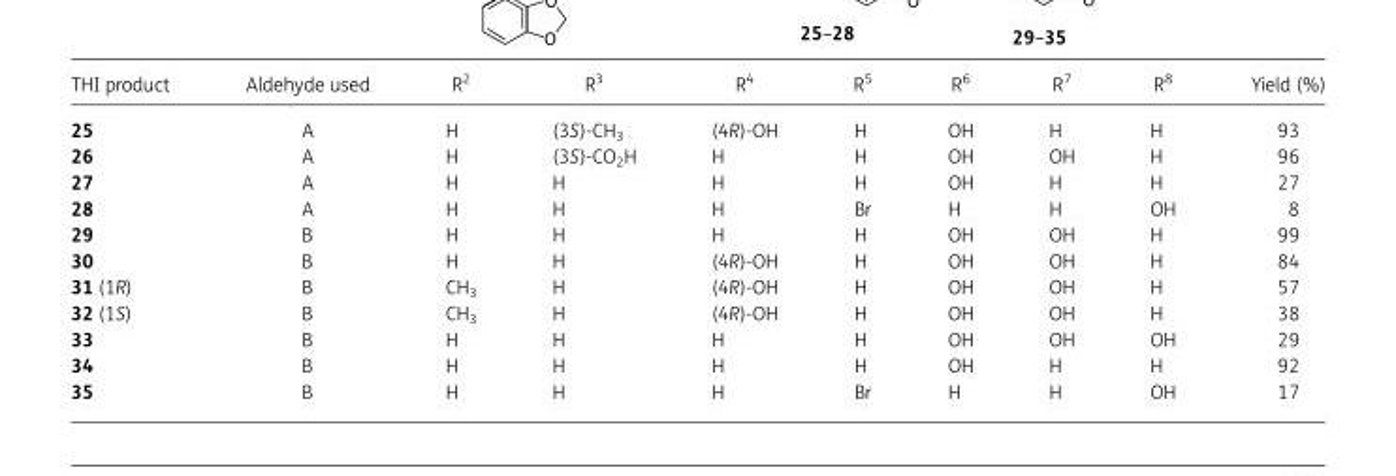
<table><thead><tr><td>THI product</td><td>Aldehyde used</td><td>R<sup>2</sup></td><td>R<sup>3</sup></td><td>R<sup>4</sup></td><td>R<sup>5</sup></td><td>R<sup>6</sup></td><td>R<sup>7</sup></td><td>R<sup>8</sup></td><td>Yield (%)</td></tr></thead><tbody><tr><td>25</td><td>A</td><td>H</td><td>(3S)-CH<sub>3</sub></td><td>(4R)-OH</td><td>H</td><td>OH</td><td>H</td><td>H</td><td>93</td></tr><tr><td>26</td><td>A</td><td>H</td><td>(3S)-CO<sub>2</sub>H</td><td>H</td><td>H</td><td>OH</td><td>OH</td><td>H</td><td>96</td></tr><tr><td>27</td><td>A</td><td>H</td><td>H</td><td>H</td><td>H</td><td>OH</td><td>H</td><td>H</td><td>27</td></tr><tr><td>28</td><td>A</td><td>H</td><td>H</td><td>H</td><td>Br</td><td>H</td><td>H</td><td>OH</td><td>8</td></tr><tr><td>29</td><td>B</td><td>H</td><td>H</td><td>H</td><td>H</td><td>OH</td><td>OH</td><td>H</td><td>99</td></tr><tr><td>30</td><td>B</td><td>H</td><td>H</td><td>(4R)-OH</td><td>H</td><td>OH</td><td>OH</td><td>H</td><td>84</td></tr><tr><td>31 (1R)</td><td>B</td><td>CH<sub>3</sub></td><td>H</td><td>(4R)-OH</td><td>H</td><td>OH</td><td>OH</td><td>H</td><td>57</td></tr><tr><td>32 (1S)</td><td>B</td><td>CH<sub>3</sub></td><td>H</td><td>(4R)-OH</td><td>H</td><td>OH</td><td>OH</td><td>H</td><td>38</td></tr><tr><td>33</td><td>B</td><td>H</td><td>H</td><td>H</td><td>H</td><td>OH</td><td>OH</td><td>OH</td><td>29</td></tr><tr><td>34</td><td>B</td><td>H</td><td>H</td><td>H</td><td>H</td><td>OH</td><td>H</td><td>H</td><td>92</td></tr><tr><td>35</td><td>B</td><td>H</td><td>H</td><td>H</td><td>Br</td><td>H</td><td>H</td><td>OH</td><td>17</td></tr></tbody></table>